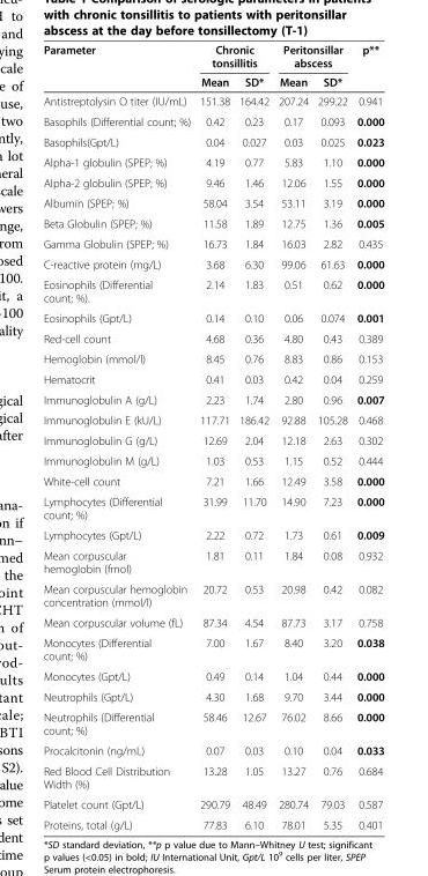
<table><thead><tr><td rowspan="2">Parameter</td><td colspan="2">Chronic tonsillitis</td><td colspan="2">Peritonsillar abscess</td><td rowspan="2">p**</td></tr><tr><td>Mean</td><td>SD*</td><td>Mean</td><td>SD*</td></tr></thead><tbody><tr><td>Antistreptolysin O titer (IU/mL)</td><td>151.38</td><td>164.42</td><td>207.24</td><td>299.22</td><td>0.941</td></tr><tr><td>Basophils (Differential count; %)</td><td>0.42</td><td>0.23</td><td>0.17</td><td>0.093</td><td>0.000</td></tr><tr><td>Basophils(Gpt/L)</td><td>0.04</td><td>0.027</td><td>0.03</td><td>0.025</td><td>0.023</td></tr><tr><td>Alpha-1 globulin (SPEP; %)</td><td>4.19</td><td>0.77</td><td>5.83</td><td>1.10</td><td>0.000</td></tr><tr><td>Alpha-2 globulin (SPEP; %)</td><td>9.46</td><td>1.46</td><td>12.06</td><td>1.55</td><td>0.000</td></tr><tr><td>Albumin (SPEP; %)</td><td>58.04</td><td>3.54</td><td>53.11</td><td>3.19</td><td>0.000</td></tr><tr><td>Beta Globulin (SPEP; %)</td><td>11.58</td><td>1.89</td><td>12.75</td><td>1.36</td><td>0.005</td></tr><tr><td>Gamma Globulin (SPEP; %)</td><td>16.73</td><td>1.84</td><td>16.03</td><td>2.82</td><td>0.435</td></tr><tr><td>C-reactive protein (mg/L)</td><td>3.68</td><td>6.30</td><td>99.06</td><td>61.63</td><td>0.000</td></tr><tr><td>Eosinophils (Differential count; %).</td><td>2.14</td><td>1.83</td><td>0.51</td><td>0.62</td><td>0.000</td></tr><tr><td>Eosinophils (Gpt/L)</td><td>0.14</td><td>0.10</td><td>0.06</td><td>0.074</td><td>0.001</td></tr><tr><td>Red-cell count</td><td>4.68</td><td>0.36</td><td>4.80</td><td>0.43</td><td>0.389</td></tr><tr><td>Hemoglobin (mmol/l)</td><td>8.45</td><td>0.76</td><td>8.83</td><td>0.86</td><td>0.153</td></tr><tr><td>Hematocrit</td><td>0.41</td><td>0.03</td><td>0.42</td><td>0.04</td><td>0.259</td></tr><tr><td>Immunoglobulin A (g/L)</td><td>2.23</td><td>1.74</td><td>2.80</td><td>0.96</td><td>0.007</td></tr><tr><td>Immunoglobulin E (kU/L)</td><td>117.71</td><td>186.42</td><td>92.88</td><td>105.28</td><td>0.468</td></tr><tr><td>Immunoglobulin G (g/L)</td><td>12.69</td><td>2.04</td><td>12.18</td><td>2.63</td><td>0.302</td></tr><tr><td>Immunoglobulin M (g/L)</td><td>1.03</td><td>0.53</td><td>1.15</td><td>0.52</td><td>0.444</td></tr><tr><td>White-cell count</td><td>7.21</td><td>1.66</td><td>12.49</td><td>3.58</td><td>0.000</td></tr><tr><td>Lymphocytes (Differential count; %)</td><td>31.99</td><td>11.70</td><td>14.90</td><td>7.23</td><td>0.000</td></tr><tr><td>Lymphocytes (Gpt/L)</td><td>2.22</td><td>0.72</td><td>1.73</td><td>0.61</td><td>0.009</td></tr><tr><td>Mean corpuscular hemoglobin (fmol)</td><td>1.81</td><td>0.11</td><td>1.84</td><td>0.08</td><td>0.932</td></tr><tr><td>Mean corpuscular hemoglobin concentration (mmol/l)</td><td>20.72</td><td>0.53</td><td>20.98</td><td>0.42</td><td>0.082</td></tr><tr><td>Mean corpuscular volume (fL)</td><td>87.34</td><td>4.54</td><td>87.73</td><td>3.17</td><td>0.758</td></tr><tr><td>Monocytes (Differential count; %)</td><td>7.00</td><td>1.67</td><td>8.40</td><td>3.20</td><td>0.038</td></tr><tr><td>Monocytes (Gpt/L)</td><td>0.49</td><td>0.14</td><td>1.04</td><td>0.44</td><td>0.000</td></tr><tr><td>Neutrophils (Gpt/L)</td><td>4.30</td><td>1.68</td><td>9.70</td><td>3.44</td><td>0.000</td></tr><tr><td>Neutrophils (Differential count; %)</td><td>58.46</td><td>12.67</td><td>76.02</td><td>8.66</td><td>0.000</td></tr><tr><td>Procalcitonin (ng/mL)</td><td>0.07</td><td>0.03</td><td>0.10</td><td>0.04</td><td>0.033</td></tr><tr><td>Red Blood Cell Distribution Width (%)</td><td>13.28</td><td>1.05</td><td>13.27</td><td>0.76</td><td>0.684</td></tr><tr><td>Platelet count (Gpt/L)</td><td>290.79</td><td>48.49</td><td>280.74</td><td>79.03</td><td>0.587</td></tr><tr><td>Proteins, total (g/L)</td><td>77.83</td><td>6.10</td><td>78.01</td><td>5.35</td><td>0.401</td></tr></tbody></table>